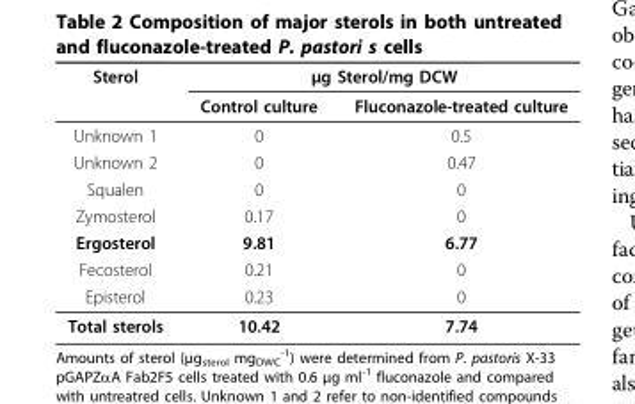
<table><thead><tr><td rowspan="2">Sterol</td><td colspan="2">μg Sterol/mg DCW</td></tr><tr><td>Control culture</td><td>Fluconazole-treated culture</td></tr></thead><tbody><tr><td>Unknown 1</td><td>0</td><td>0.5</td></tr><tr><td>Unknown 2</td><td>0</td><td>0.47</td></tr><tr><td>Squalen</td><td>0</td><td>0</td></tr><tr><td>Zymosterol</td><td>0.17</td><td>0</td></tr><tr><td>Ergosterol</td><td>9.81</td><td>6.77</td></tr><tr><td>Fecosterol</td><td>0.21</td><td>0</td></tr><tr><td>Episterol</td><td>0.23</td><td>0</td></tr><tr><td>Total sterols</td><td>10.42</td><td>7.74</td></tr></tbody></table>